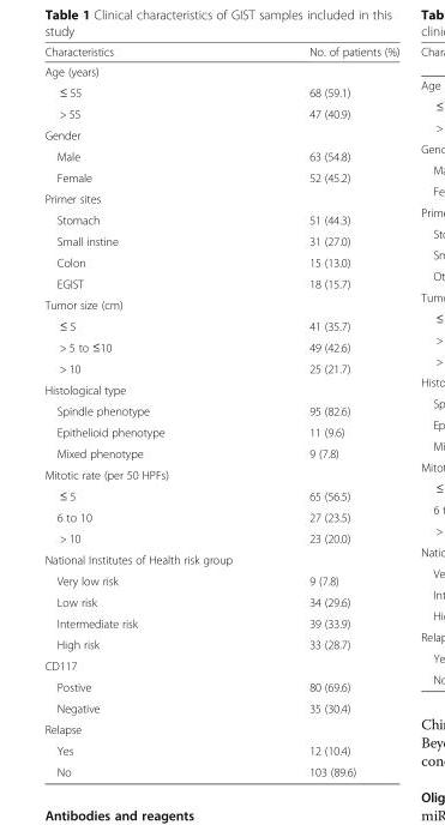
<table><thead><tr><td>Characteristics</td><td>No. of patients (%)</td></tr></thead><tbody><tr><td colspan="2">Age (years)</td></tr><tr><td>≤ 55</td><td>68 (59.1)</td></tr><tr><td>&gt; 55</td><td>47 (40.9)</td></tr><tr><td colspan="2">Gender</td></tr><tr><td>Male</td><td>63 (54.8)</td></tr><tr><td>Female</td><td>52 (45.2)</td></tr><tr><td colspan="2">Primer sites</td></tr><tr><td>Stomach</td><td>51 (44.3)</td></tr><tr><td>Small instine</td><td>31 (27.0)</td></tr><tr><td>Colon</td><td>15 (13.0)</td></tr><tr><td>EGIST</td><td>18 (15.7)</td></tr><tr><td colspan="2">Tumor size (cm)</td></tr><tr><td>≤ 5</td><td>41 (35.7)</td></tr><tr><td>&gt; 5 to ≤10</td><td>49 (42.6)</td></tr><tr><td>&gt; 10</td><td>25 (21.7)</td></tr><tr><td colspan="2">Histological type</td></tr><tr><td>Spindle phenotype</td><td>95 (82.6)</td></tr><tr><td>Epithelioid phenotype</td><td>11 (9.6)</td></tr><tr><td>Mixed phenotype</td><td>9 (7.8)</td></tr><tr><td colspan="2">Mitotic rate (per 50 HPFs)</td></tr><tr><td>≤ 5</td><td>65 (56.5)</td></tr><tr><td>6 to 10</td><td>27 (23.5)</td></tr><tr><td>&gt; 10</td><td>23 (20.0)</td></tr><tr><td colspan="2">National Institutes of Health risk group</td></tr><tr><td>Very low risk</td><td>9 (7.8)</td></tr><tr><td>Low risk</td><td>34 (29.6)</td></tr><tr><td>Intermediate risk</td><td>39 (33.9)</td></tr><tr><td>High risk</td><td>33 (28.7)</td></tr><tr><td colspan="2">CD117</td></tr><tr><td>Postive</td><td>80 (69.6)</td></tr><tr><td>Negative</td><td>35 (30.4)</td></tr><tr><td colspan="2">Relapse</td></tr><tr><td>Yes</td><td>12 (10.4)</td></tr><tr><td>No</td><td>103 (89.6)</td></tr></tbody></table>